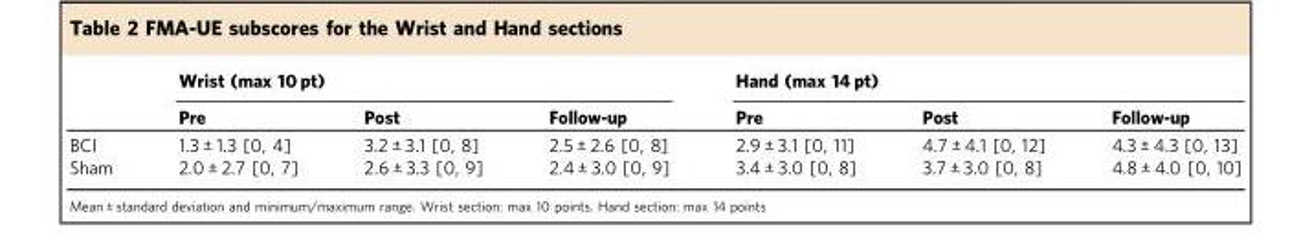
<table><thead><tr><td rowspan="2"></td><td colspan="3">Wrist (max 10 pt)</td><td colspan="3">Hand (max 14 pt)</td></tr><tr><td>Pre</td><td>Post</td><td>Follow-up</td><td>Pre</td><td>Post</td><td>Follow-up</td></tr></thead><tbody><tr><td>BCI</td><td>1.3 ± 1.3 [0, 4]</td><td>3.2 ± 3.1 [0, 8]</td><td>2.5 ± 2.6 [0, 8]</td><td>2.9 ± 3.1 [0, 11]</td><td>4.7 ± 4.1 [0, 12]</td><td>4.3 ± 4.3 [0, 13]</td></tr><tr><td>Sham</td><td>2.0 ± 2.7 [0, 7]</td><td>2.6 ± 3.3 [0, 9]</td><td>2.4 ± 3.0 [0, 9]</td><td>3.4 ± 3.0 [0, 8]</td><td>3.7 ± 3.0 [0, 8]</td><td>4.8 ± 4.0 [0, 10]</td></tr></tbody></table>